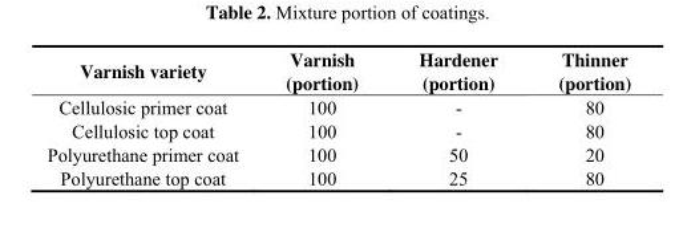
<table><thead><tr><td>Varnish variety</td><td>Varnish (portion)</td><td>Hardener (portion)</td><td>Thinner (portion)</td></tr></thead><tbody><tr><td>Cellulosic primer coat</td><td>100</td><td>-</td><td>80</td></tr><tr><td>Cellulosic top coat</td><td>100</td><td>-</td><td>80</td></tr><tr><td>Polyurethane primer coat</td><td>100</td><td>50</td><td>20</td></tr><tr><td>Polyurethane top coat</td><td>100</td><td>25</td><td>80</td></tr></tbody></table>